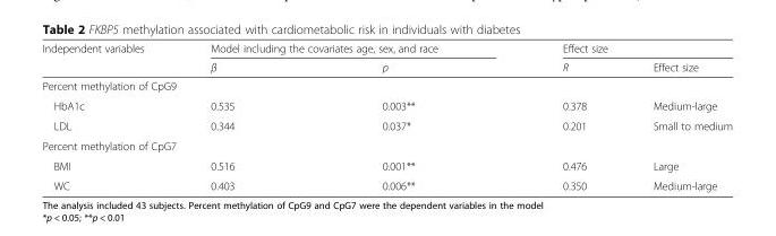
<table><thead><tr><td rowspan="2">Independent variables</td><td colspan="2">Model including the covariates age, sex, and race</td><td colspan="2">Effect size</td></tr><tr><td>β</td><td>p</td><td>R</td><td>Effect size</td></tr></thead><tbody><tr><td colspan="5">Percent methylation of CpG9</td></tr><tr><td>HbA1c</td><td>0.535</td><td>0.003**</td><td>0.378</td><td>Medium-large</td></tr><tr><td>LDL</td><td>0.344</td><td>0.037*</td><td>0.201</td><td>Small to medium</td></tr><tr><td colspan="5">Percent methylation of CpG7</td></tr><tr><td>BMI</td><td>0.516</td><td>0.001**</td><td>0.476</td><td>Large</td></tr><tr><td>WC</td><td>0.403</td><td>0.006**</td><td>0.350</td><td>Medium-large</td></tr></tbody></table>